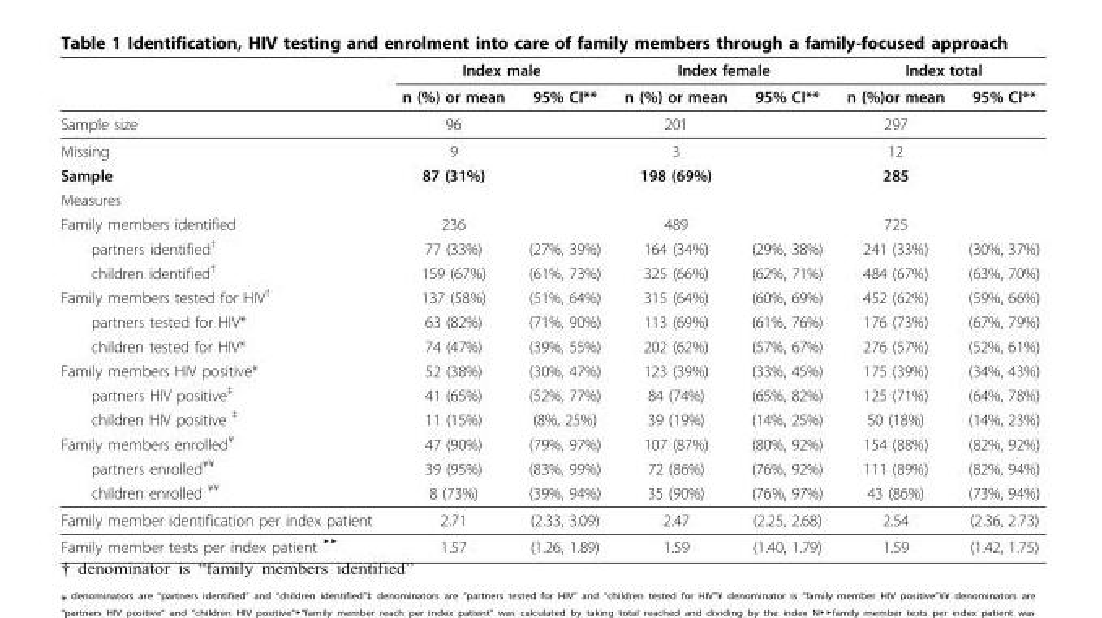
<table><thead><tr><td rowspan="2"></td><td colspan="2">Index male</td><td colspan="2">Index female</td><td colspan="2">Index total</td></tr><tr><td>n (%) or mean</td><td>95% CI**</td><td>n (%) or mean</td><td>95% CI**</td><td>n (%)or mean</td><td>95% CI**</td></tr></thead><tbody><tr><td>Sample size</td><td>96</td><td></td><td>201</td><td></td><td>297</td><td></td></tr><tr><td>Missing</td><td>9</td><td></td><td>3</td><td></td><td>12</td><td></td></tr><tr><td>Sample</td><td>87 (31%)</td><td></td><td>198 (69%)</td><td></td><td>285</td><td></td></tr><tr><td colspan="7">Measures</td></tr><tr><td>Family members identified</td><td>236</td><td></td><td>489</td><td></td><td>725</td><td></td></tr><tr><td>partners identified<sup>†</sup></td><td>77 (33%)</td><td>(27%, 39%)</td><td>164 (34%)</td><td>(29%, 38%)</td><td>241 (33%)</td><td>(30%, 37%)</td></tr><tr><td>children identified<sup>†</sup></td><td>159 (67%)</td><td>(61%, 73%)</td><td>325 (66%)</td><td>(62%, 71%)</td><td>484 (67%)</td><td>(63%, 70%)</td></tr><tr><td>Family members tested for HIV<sup>†</sup></td><td>137 (58%)</td><td>(51%, 64%)</td><td>315 (64%)</td><td>(60%, 69%)</td><td>452 (62%)</td><td>(59%, 66%)</td></tr><tr><td>partners tested for HIV*</td><td>63 (82%)</td><td>(71%, 90%)</td><td>113 (69%)</td><td>(61%, 76%)</td><td>176 (73%)</td><td>(67%, 79%)</td></tr><tr><td>children tested for HIV*</td><td>74 (47%)</td><td>(39%, 55%)</td><td>202 (62%)</td><td>(57%, 67%)</td><td>276 (57%)</td><td>(52%, 61%)</td></tr><tr><td>Family members HIV positive*</td><td>52 (38%)</td><td>(30%, 47%)</td><td>123 (39%)</td><td>(33%, 45%)</td><td>175 (39%)</td><td>(34%, 43%)</td></tr><tr><td>partners HIV positive<sup>‡</sup></td><td>41 (65%)</td><td>(52%, 77%)</td><td>84 (74%)</td><td>(65%, 82%)</td><td>125 (71%)</td><td>(64%, 78%)</td></tr><tr><td>children HIV positive <sup>‡</sup></td><td>11 (15%)</td><td>(8%, 25%)</td><td>39 (19%)</td><td>(14%, 25%)</td><td>50 (18%)</td><td>(14%, 23%)</td></tr><tr><td>Family members enrolled<sup>¥</sup></td><td>47 (90%)</td><td>(79%, 97%)</td><td>107 (87%)</td><td>(80%, 92%)</td><td>154 (88%)</td><td>(82%, 92%)</td></tr><tr><td>partners enrolled<sup>¥¥</sup></td><td>39 (95%)</td><td>(83%, 99%)</td><td>72 (86%)</td><td>(76%, 92%)</td><td>111 (89%)</td><td>(82%, 94%)</td></tr><tr><td>children enrolled <sup>¥¥</sup></td><td>8 (73%)</td><td>(39%, 94%)</td><td>35 (90%)</td><td>(76%, 97%)</td><td>43 (86%)</td><td>(73%, 94%)</td></tr><tr><td>Family member identification per index patient</td><td>2.71</td><td>(2.33, 3.09)</td><td>2.47</td><td>(2.25, 2.68)</td><td>2.54</td><td>(2.36, 2.73)</td></tr><tr><td>Family member tests per index patient <sup>▶▶</sup></td><td>1.57</td><td>(1.26, 1.89)</td><td>1.59</td><td>(1.40, 1.79)</td><td>1.59</td><td>(1.42, 1.75)</td></tr></tbody></table>